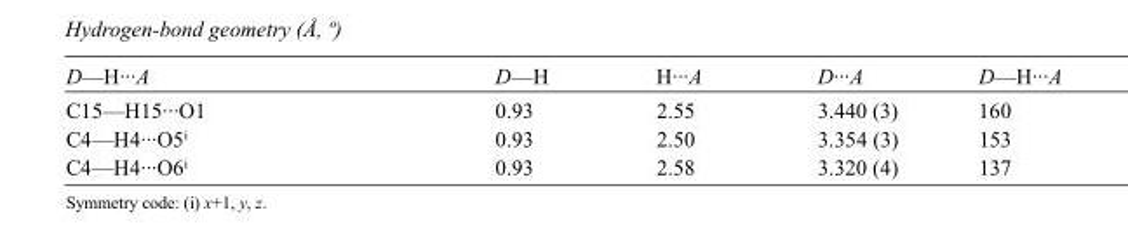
<table><tbody><tr><td>D—H···A</td><td>D—H</td><td>H···A</td><td>D···A</td><td>D—H···A</td></tr><tr><td>C15—H15···O1</td><td>0.93</td><td>2.55</td><td>3.440 (3)</td><td>160</td></tr><tr><td>C4—H4···O5<sup>i</sup></td><td>0.93</td><td>2.50</td><td>3.354 (3)</td><td>153</td></tr><tr><td>C4—H4···O6<sup>i</sup></td><td>0.93</td><td>2.58</td><td>3.320 (4)</td><td>137</td></tr></tbody></table>